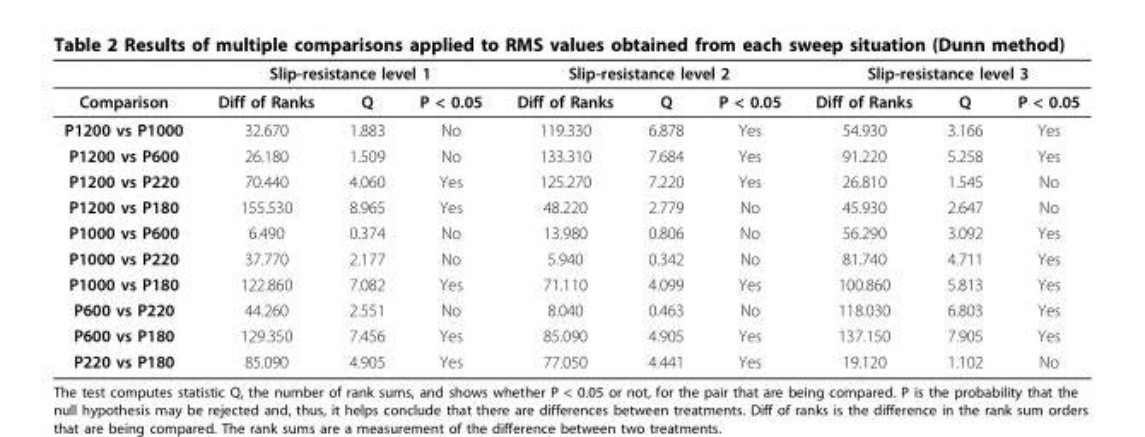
<table><thead><tr><td rowspan="2">Comparison</td><td colspan="3">Slip-resistance level 1</td><td colspan="3">Slip-resistance level 2</td><td colspan="3">Slip-resistance level 3</td></tr><tr><td>Diff of Ranks</td><td>Q</td><td>P &lt; 0.05</td><td>Diff of Ranks</td><td>Q</td><td>P &lt; 0.05</td><td>Diff of Ranks</td><td>Q</td><td>P &lt; 0.05</td></tr></thead><tbody><tr><td>P1200 vs P1000</td><td>32.670</td><td>1.883</td><td>No</td><td>119.330</td><td>6.878</td><td>Yes</td><td>54.930</td><td>3.166</td><td>Yes</td></tr><tr><td>P1200 vs P600</td><td>26.180</td><td>1.509</td><td>No</td><td>133.310</td><td>7.684</td><td>Yes</td><td>91.220</td><td>5.258</td><td>Yes</td></tr><tr><td>P1200 vs P220</td><td>70.440</td><td>4.060</td><td>Yes</td><td>125.270</td><td>7.220</td><td>Yes</td><td>26.810</td><td>1.545</td><td>No</td></tr><tr><td>P1200 vs P180</td><td>155.530</td><td>8.965</td><td>Yes</td><td>48.220</td><td>2.779</td><td>No</td><td>45.930</td><td>2.647</td><td>No</td></tr><tr><td>P1000 vs P600</td><td>6.490</td><td>0.374</td><td>No</td><td>13.980</td><td>0.806</td><td>No</td><td>56.290</td><td>3.092</td><td>Yes</td></tr><tr><td>P1000 vs P220</td><td>37.770</td><td>2.177</td><td>No</td><td>5.940</td><td>0.342</td><td>No</td><td>81.740</td><td>4.711</td><td>Yes</td></tr><tr><td>P1000 vs P180</td><td>122.860</td><td>7.082</td><td>Yes</td><td>71.110</td><td>4.099</td><td>Yes</td><td>100.860</td><td>5.813</td><td>Yes</td></tr><tr><td>P600 vs P220</td><td>44.260</td><td>2.551</td><td>No</td><td>8.040</td><td>0.463</td><td>No</td><td>118.030</td><td>6.803</td><td>Yes</td></tr><tr><td>P600 vs P180</td><td>129.350</td><td>7.456</td><td>Yes</td><td>85.090</td><td>4.905</td><td>Yes</td><td>137.150</td><td>7.905</td><td>Yes</td></tr><tr><td>P220 vs P180</td><td>85.090</td><td>4.905</td><td>Yes</td><td>77.050</td><td>4.441</td><td>Yes</td><td>19.120</td><td>1.102</td><td>No</td></tr></tbody></table>